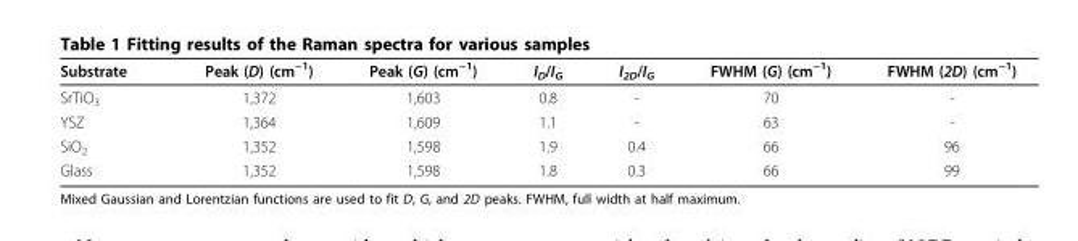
<table><thead><tr><td>Substrate</td><td>Peak (D) (cm<sup>−1</sup>)</td><td>Peak (G) (cm<sup>−1</sup>)</td><td>I<sub>D</sub>/I<sub>G</sub></td><td>I<sub>2D</sub>/I<sub>G</sub></td><td>FWHM (G) (cm<sup>−1</sup>)</td><td>FWHM (2D) (cm<sup>−1</sup>)</td></tr></thead><tbody><tr><td>SrTiO<sub>3</sub></td><td>1,372</td><td>1,603</td><td>0.8</td><td>-</td><td>70</td><td>-</td></tr><tr><td>YSZ</td><td>1,364</td><td>1,609</td><td>1.1</td><td>-</td><td>63</td><td>-</td></tr><tr><td>SiO<sub>2</sub></td><td>1,352</td><td>1,598</td><td>1.9</td><td>0.4</td><td>66</td><td>96</td></tr><tr><td>Glass</td><td>1,352</td><td>1,598</td><td>1.8</td><td>0.3</td><td>66</td><td>99</td></tr></tbody></table>